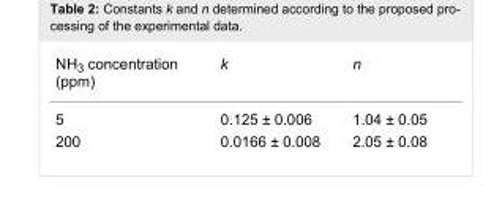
<table><tbody><tr><td>NH<sub>3</sub> concentration (ppm)</td><td>k</td><td>n</td></tr><tr><td>5</td><td>0.125 ± 0.006</td><td>1.04 ± 0.05</td></tr><tr><td>200</td><td>0.0166 ± 0.008</td><td>2.05 ± 0.08</td></tr></tbody></table>